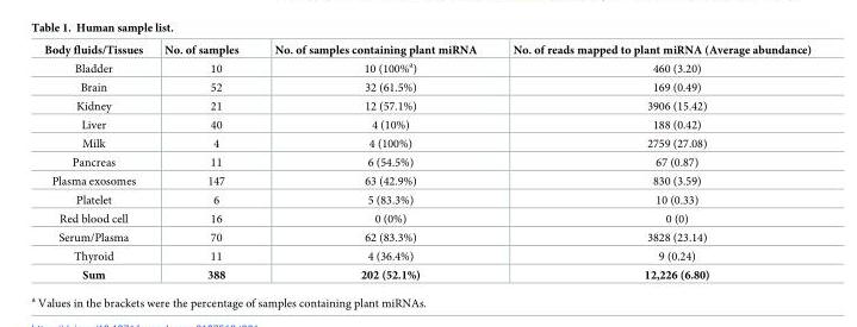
<table><thead><tr><td>Body fluids/Tissues</td><td>No. of samples</td><td>No. of samples containing plant miRNA</td><td>No. of reads mapped to plant miRNA (Average abundance)</td></tr></thead><tbody><tr><td>Bladder</td><td>10</td><td>10 (100%<sup>a</sup>)</td><td>460 (3.20)</td></tr><tr><td>Brain</td><td>52</td><td>32 (61.5%)</td><td>169 (0.49)</td></tr><tr><td>Kidney</td><td>21</td><td>12 (57.1%)</td><td>3906 (15.42)</td></tr><tr><td>Liver</td><td>40</td><td>4 (10%)</td><td>188 (0.42)</td></tr><tr><td>Milk</td><td>4</td><td>4 (100%)</td><td>2759 (27.08)</td></tr><tr><td>Pancreas</td><td>11</td><td>6 (54.5%)</td><td>67 (0.87)</td></tr><tr><td>Plasma exosomes</td><td>147</td><td>63 (42.9%)</td><td>830 (3.59)</td></tr><tr><td>Platelet</td><td>6</td><td>5 (83.3%)</td><td>10 (0.33)</td></tr><tr><td>Red blood cell</td><td>16</td><td>0 (0%)</td><td>0 (0)</td></tr><tr><td>Serum/Plasma</td><td>70</td><td>62 (83.3%)</td><td>3828 (23.14)</td></tr><tr><td>Thyroid</td><td>11</td><td>4 (36.4%)</td><td>9 (0.24)</td></tr><tr><td>Sum</td><td>388</td><td>202 (52.1%)</td><td>12,226 (6.80)</td></tr></tbody></table>